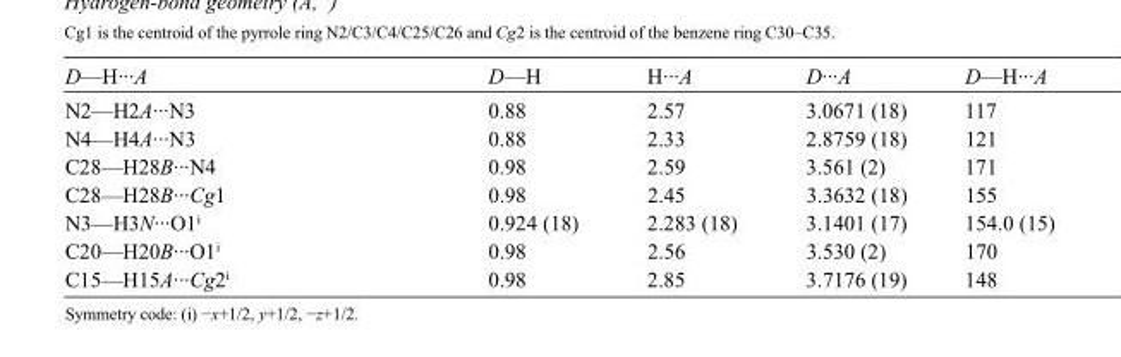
<table><tbody><tr><td>D—H···A</td><td>D—H</td><td>H···A</td><td>D···A</td><td>D—H···A</td></tr><tr><td>N2—H2A···N3</td><td>0.88</td><td>2.57</td><td>3.0671 (18)</td><td>117</td></tr><tr><td>N4—H4A···N3</td><td>0.88</td><td>2.33</td><td>2.8759 (18)</td><td>121</td></tr><tr><td>C28—H28B···N4</td><td>0.98</td><td>2.59</td><td>3.561 (2)</td><td>171</td></tr><tr><td>C28—H28B···Cg1</td><td>0.98</td><td>2.45</td><td>3.3632 (18)</td><td>155</td></tr><tr><td>N3—H3N···O1<sup>i</sup></td><td>0.924 (18)</td><td>2.283 (18)</td><td>3.1401 (17)</td><td>154.0 (15)</td></tr><tr><td>C20—H20B···O1<sup>i</sup></td><td>0.98</td><td>2.56</td><td>3.530 (2)</td><td>170</td></tr><tr><td>C15—H15A···Cg2<sup>i</sup></td><td>0.98</td><td>2.85</td><td>3.7176 (19)</td><td>148</td></tr></tbody></table>